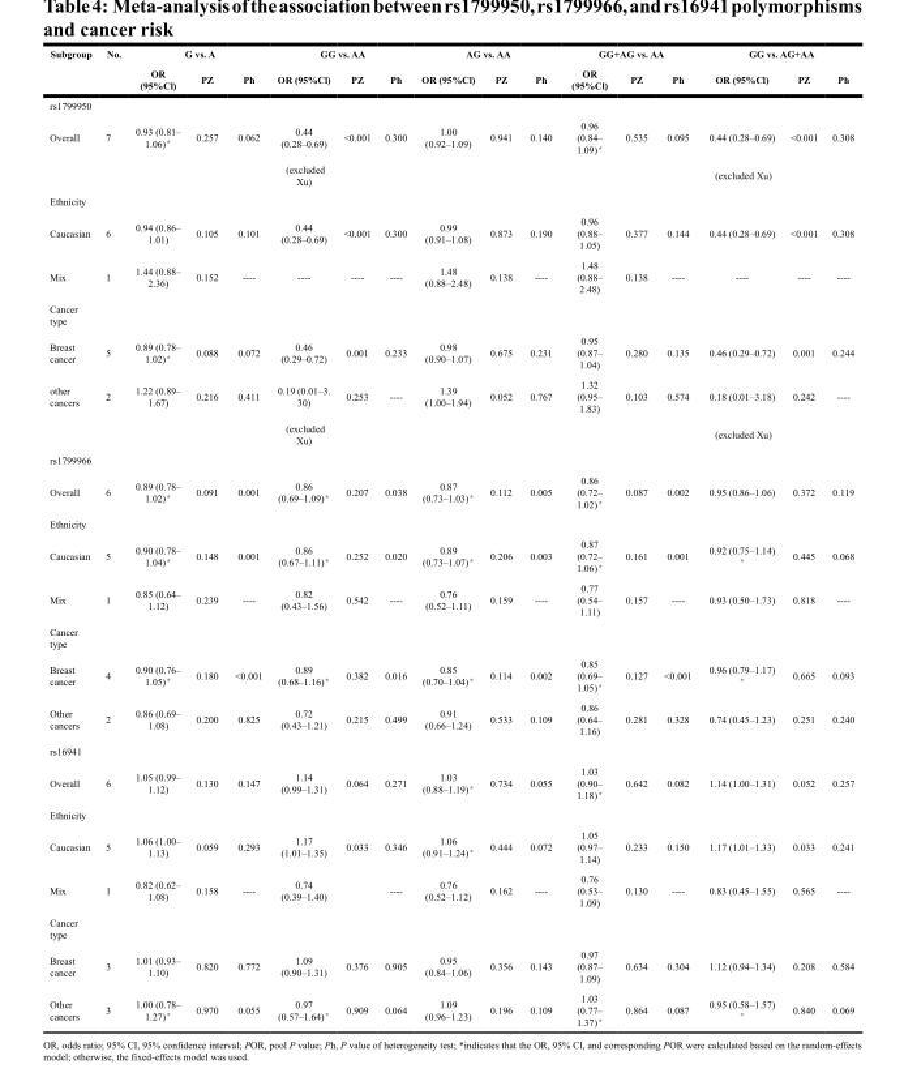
<table><thead><tr><td rowspan="2">Subgroup</td><td rowspan="2">No.</td><td colspan="3">G vs. A</td><td colspan="3">GG vs. AA</td><td colspan="3">AG vs. AA</td><td colspan="3">GG+AG vs. AA</td><td colspan="3">GG vs. AG+AA</td></tr><tr><td>OR (95%Cl)</td><td>PZ</td><td>Ph</td><td>OR (95%Cl)</td><td>PZ</td><td>Ph</td><td>OR (95%Cl)</td><td>PZ</td><td>Ph</td><td>OR (95%Cl)</td><td>PZ</td><td>Ph</td><td>OR (95%Cl)</td><td>PZ</td><td>Ph</td></tr></thead><tbody><tr><td colspan="17">rs1799950</td></tr><tr><td rowspan="2">Overall</td><td>7</td><td>0.93 (0.81– 1.06)＊</td><td>0.257</td><td>0.062</td><td>0.44 (0.28–0.69)</td><td>&lt;0.001</td><td>0.300</td><td>1.00 (0.92–1.09)</td><td>0.941</td><td>0.140</td><td>0.96 (0.84– 1.09)＊</td><td>0.535</td><td>0.095</td><td>0.44 (0.28–0.69)</td><td>&lt;0.001</td><td>0.308</td></tr><tr><td></td><td></td><td></td><td></td><td>(excluded Xu)</td><td></td><td></td><td></td><td></td><td></td><td></td><td></td><td></td><td>(excluded Xu)</td><td></td><td></td></tr><tr><td colspan="17">Ethnicity</td></tr><tr><td>Caucasian</td><td>6</td><td>0.94 (0.86– 1.01)</td><td>0.105</td><td>0.101</td><td>0.44 (0.28–0.69)</td><td>&lt;0.001</td><td>0.300</td><td>0.99 (0.91–1.08)</td><td>0.873</td><td>0.190</td><td>0.96 (0.88– 1.05)</td><td>0.377</td><td>0.144</td><td>0.44 (0.28–0.69)</td><td>&lt;0.001</td><td>0.308</td></tr><tr><td>Mix</td><td>1</td><td>1.44 (0.88– 2.36)</td><td>0.152</td><td>----</td><td>----</td><td>----</td><td>----</td><td>1.48 (0.88–2.48)</td><td>0.138</td><td>----</td><td>1.48 (0.88– 2.48)</td><td>0.138</td><td>----</td><td>----</td><td>----</td><td>----</td></tr><tr><td colspan="17">Cancer type</td></tr><tr><td>Breast cancer</td><td>5</td><td>0.89 (0.78– 1.02)＊</td><td>0.088</td><td>0.072</td><td>0.46 (0.29–0.72)</td><td>0.001</td><td>0.233</td><td>0.98 (0.90–1.07)</td><td>0.675</td><td>0.231</td><td>0.95 (0.87– 1.04)</td><td>0.280</td><td>0.135</td><td>0.46 (0.29–0.72)</td><td>0.001</td><td>0.244</td></tr><tr><td rowspan="2">other cancers</td><td>2</td><td>1.22 (0.89– 1.67)</td><td>0.216</td><td>0.411</td><td>0.19 (0.01–3. 30)</td><td>0.253</td><td>----</td><td>1.39 (1.00–1.94)</td><td>0.052</td><td>0.767</td><td>1.32 (0.95– 1.83)</td><td>0.103</td><td>0.574</td><td>0.18 (0.01–3.18)</td><td>0.242</td><td>----</td></tr><tr><td></td><td></td><td></td><td></td><td>(excluded Xu)</td><td></td><td></td><td></td><td></td><td></td><td></td><td></td><td></td><td>(excluded Xu)</td><td></td><td></td></tr><tr><td colspan="17">rs1799966</td></tr><tr><td>Overall</td><td>6</td><td>0.89 (0.78– 1.02)＊</td><td>0.091</td><td>0.001</td><td>0.86 (0.69–1.09)＊</td><td>0.207</td><td>0.038</td><td>0.87 (0.73–1.03)＊</td><td>0.112</td><td>0.005</td><td>0.86 (0.72– 1.02)＊</td><td>0.087</td><td>0.002</td><td>0.95 (0.86–1.06)</td><td>0.372</td><td>0.119</td></tr><tr><td colspan="17">Ethnicity</td></tr><tr><td>Caucasian</td><td>5</td><td>0.90 (0.78– 1.04)＊</td><td>0.148</td><td>0.001</td><td>0.86 (0.67–1.11)＊</td><td>0.252</td><td>0.020</td><td>0.89 (0.73–1.07)＊</td><td>0.206</td><td>0.003</td><td>0.87 (0.72– 1.06)＊</td><td>0.161</td><td>0.001</td><td>0.92 (0.75–1.14) ＊</td><td>0.445</td><td>0.068</td></tr><tr><td>Mix</td><td>1</td><td>0.85 (0.64– 1.12)</td><td>0.239</td><td>----</td><td>0.82 (0.43–1.56)</td><td>0.542</td><td>----</td><td>0.76 (0.52–1.11)</td><td>0.159</td><td>----</td><td>0.77 (0.54– 1.11)</td><td>0.157</td><td>----</td><td>0.93 (0.50–1.73)</td><td>0.818</td><td>----</td></tr><tr><td colspan="17">Cancer type</td></tr><tr><td>Breast cancer</td><td>4</td><td>0.90 (0.76– 1.05)＊</td><td>0.180</td><td>&lt;0.001</td><td>0.89 (0.68–1.16)＊</td><td>0.382</td><td>0.016</td><td>0.85 (0.70–1.04)＊</td><td>0.114</td><td>0.002</td><td>0.85 (0.69– 1.05)＊</td><td>0.127</td><td>&lt;0.001</td><td>0.96 (0.79–1.17) ＊</td><td>0.665</td><td>0.093</td></tr><tr><td>Other cancers</td><td>2</td><td>0.86 (0.69– 1.08)</td><td>0.200</td><td>0.825</td><td>0.72 (0.43–1.21)</td><td>0.215</td><td>0.499</td><td>0.91 (0.66–1.24)</td><td>0.533</td><td>0.109</td><td>0.86 (0.64– 1.16)</td><td>0.281</td><td>0.328</td><td>0.74 (0.45–1.23)</td><td>0.251</td><td>0.240</td></tr><tr><td colspan="17">rs16941</td></tr><tr><td>Overall</td><td>6</td><td>1.05 (0.99– 1.12)</td><td>0.130</td><td>0.147</td><td>1.14 (0.99–1.31)</td><td>0.064</td><td>0.271</td><td>1.03 (0.88–1.19)＊</td><td>0.734</td><td>0.055</td><td>1.03 (0.90– 1.18)＊</td><td>0.642</td><td>0.082</td><td>1.14 (1.00–1.31)</td><td>0.052</td><td>0.257</td></tr><tr><td colspan="17">Ethnicity</td></tr><tr><td>Caucasian</td><td>5</td><td>1.06 (1.00– 1.13)</td><td>0.059</td><td>0.293</td><td>1.17 (1.01–1.35)</td><td>0.033</td><td>0.346</td><td>1.06 (0.91–1.24)＊</td><td>0.444</td><td>0.072</td><td>1.05 (0.97– 1.14)</td><td>0.233</td><td>0.150</td><td>1.17 (1.01–1.33)</td><td>0.033</td><td>0.241</td></tr><tr><td>Mix</td><td>1</td><td>0.82 (0.62– 1.08)</td><td>0.158</td><td>----</td><td>0.74 (0.39–1.40)</td><td></td><td>----</td><td>0.76 (0.52–1.12)</td><td>0.162</td><td>----</td><td>0.76 (0.53– 1.09)</td><td>0.130</td><td>----</td><td>0.83 (0.45–1.55)</td><td>0.565</td><td>----</td></tr><tr><td colspan="17">Cancer type</td></tr><tr><td>Breast cancer</td><td>3</td><td>1.01 (0.93– 1.10)</td><td>0.820</td><td>0.772</td><td>1.09 (0.90–1.31)</td><td>0.376</td><td>0.905</td><td>0.95 (0.84–1.06)</td><td>0.356</td><td>0.143</td><td>0.97 (0.87– 1.09)</td><td>0.634</td><td>0.304</td><td>1.12 (0.94–1.34)</td><td>0.208</td><td>0.584</td></tr><tr><td>Other cancers</td><td>3</td><td>1.00 (0.78– 1.27)＊</td><td>0.970</td><td>0.055</td><td>0.97 (0.57–1.64)＊</td><td>0.909</td><td>0.064</td><td>1.09 (0.96–1.23)</td><td>0.196</td><td>0.109</td><td>1.03 (0.77– 1.37)＊</td><td>0.864</td><td>0.087</td><td>0.95 (0.58–1.57) ＊</td><td>0.840</td><td>0.069</td></tr></tbody></table>